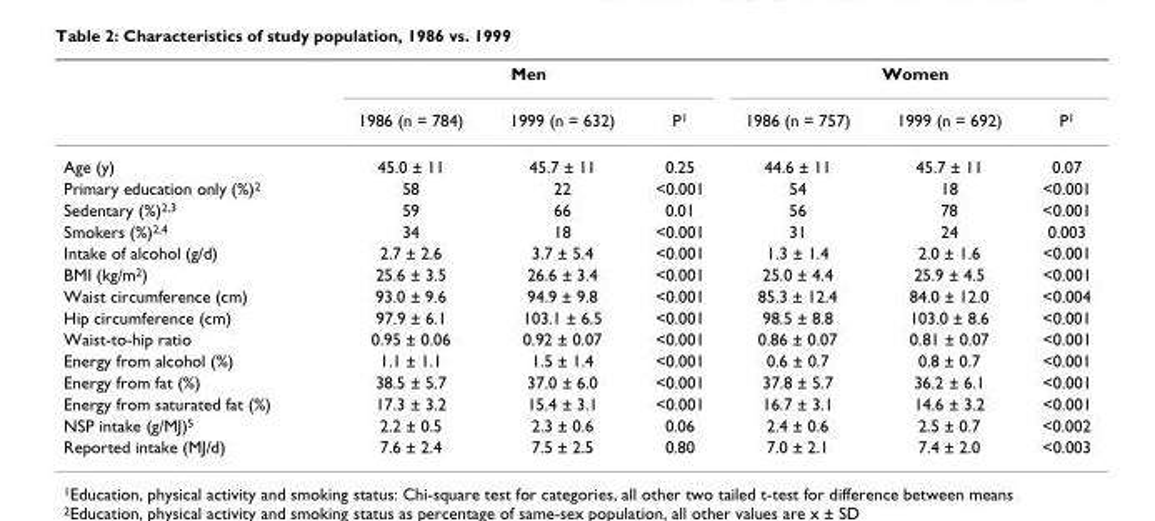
<table><thead><tr><td rowspan="2"></td><td colspan="3">Men</td><td colspan="3">Women</td></tr><tr><td>1986 (n = 784)</td><td>1999 (n = 632)</td><td>P<sup>1</sup></td><td>1986 (n = 757)</td><td>1999 (n = 692)</td><td>P<sup>1</sup></td></tr></thead><tbody><tr><td>Age (y)</td><td>45.0 ± 11</td><td>45.7 ± 11</td><td>0.25</td><td>44.6 ± 11</td><td>45.7 ± 11</td><td>0.07</td></tr><tr><td>Primary education only (%)<sup>2</sup></td><td>58</td><td>22</td><td>&lt;0.001</td><td>54</td><td>18</td><td>&lt;0.001</td></tr><tr><td>Sedentary (%)<sup>2,3</sup></td><td>59</td><td>66</td><td>0.01</td><td>56</td><td>78</td><td>&lt;0.001</td></tr><tr><td>Smokers (%)<sup>2,4</sup></td><td>34</td><td>18</td><td>&lt;0.001</td><td>31</td><td>24</td><td>0.003</td></tr><tr><td>Intake of alcohol (g/d)</td><td>2.7 ± 2.6</td><td>3.7 ± 5.4</td><td>&lt;0.001</td><td>1.3 ± 1.4</td><td>2.0 ± 1.6</td><td>&lt;0.001</td></tr><tr><td>BMI (kg/m<sup>2</sup>)</td><td>25.6 ± 3.5</td><td>26.6 ± 3.4</td><td>&lt;0.001</td><td>25.0 ± 4.4</td><td>25.9 ± 4.5</td><td>&lt;0.001</td></tr><tr><td>Waist circumference (cm)</td><td>93.0 ± 9.6</td><td>94.9 ± 9.8</td><td>&lt;0.001</td><td>85.3 ± 12.4</td><td>84.0 ± 12.0</td><td>&lt;0.004</td></tr><tr><td>Hip circumference (cm)</td><td>97.9 ± 6.1</td><td>103.1 ± 6.5</td><td>&lt;0.001</td><td>98.5 ± 8.8</td><td>103.0 ± 8.6</td><td>&lt;0.001</td></tr><tr><td>Waist-to-hip ratio</td><td>0.95 ± 0.06</td><td>0.92 ± 0.07</td><td>&lt;0.001</td><td>0.86 ± 0.07</td><td>0.81 ± 0.07</td><td>&lt;0.001</td></tr><tr><td>Energy from alcohol (%)</td><td>1.1 ± 1.1</td><td>1.5 ± 1.4</td><td>&lt;0.001</td><td>0.6 ± 0.7</td><td>0.8 ± 0.7</td><td>&lt;0.001</td></tr><tr><td>Energy from fat (%)</td><td>38.5 ± 5.7</td><td>37.0 ± 6.0</td><td>&lt;0.001</td><td>37.8 ± 5.7</td><td>36.2 ± 6.1</td><td>&lt;0.001</td></tr><tr><td>Energy from saturated fat (%)</td><td>17.3 ± 3.2</td><td>15.4 ± 3.1</td><td>&lt;0.001</td><td>16.7 ± 3.1</td><td>14.6 ± 3.2</td><td>&lt;0.001</td></tr><tr><td>NSP intake (g/MJ)<sup>5</sup></td><td>2.2 ± 0.5</td><td>2.3 ± 0.6</td><td>0.06</td><td>2.4 ± 0.6</td><td>2.5 ± 0.7</td><td>&lt;0.002</td></tr><tr><td>Reported intake (MJ/d)</td><td>7.6 ± 2.4</td><td>7.5 ± 2.5</td><td>0.80</td><td>7.0 ± 2.1</td><td>7.4 ± 2.0</td><td>&lt;0.003</td></tr></tbody></table>